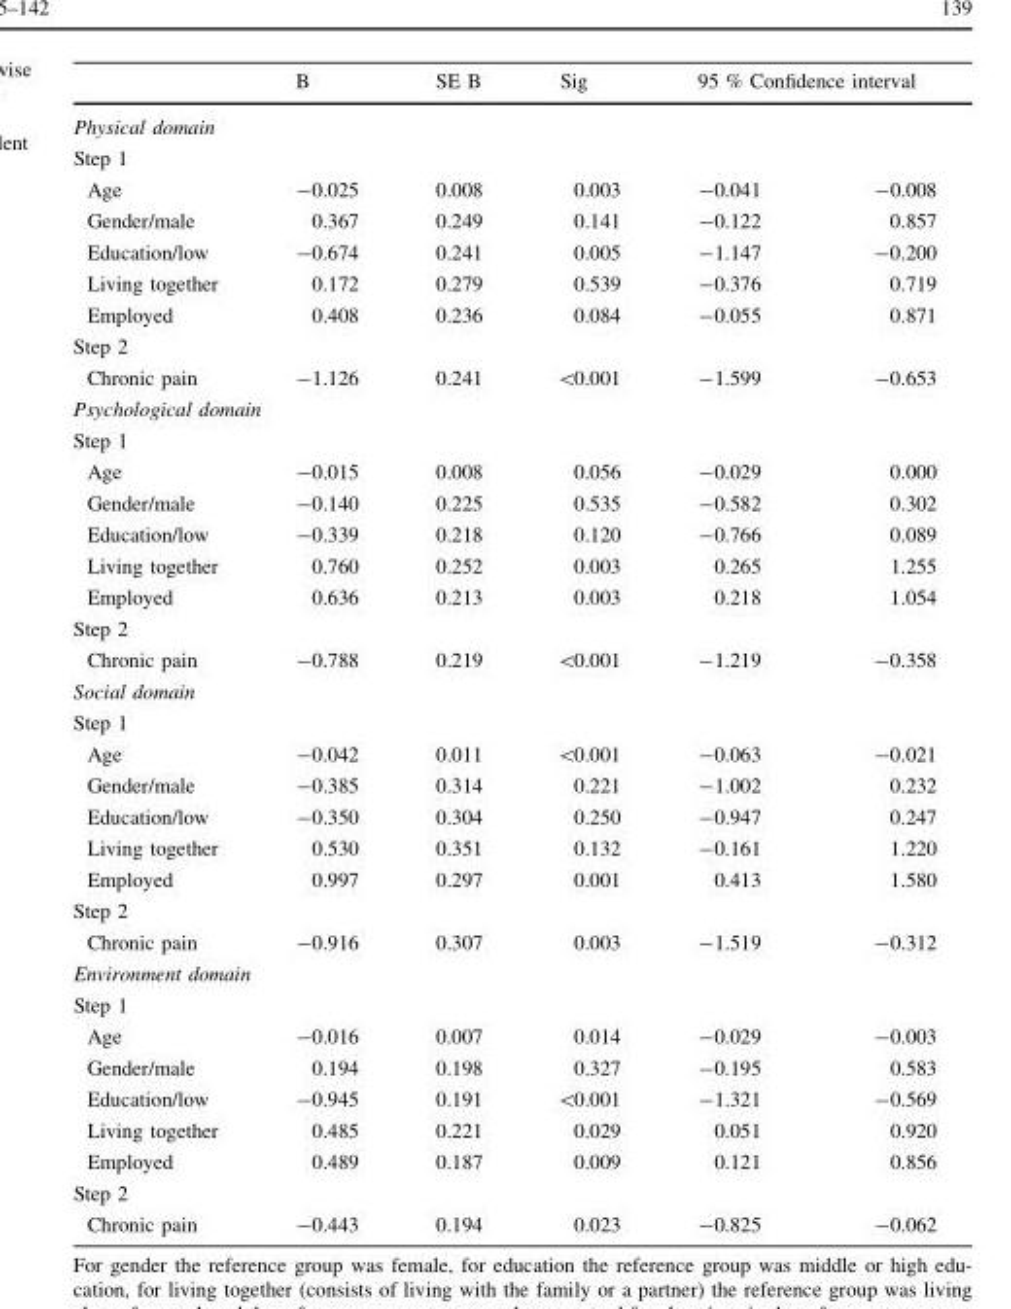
<table><thead><tr><td></td><td>B</td><td>SE B</td><td>Sig</td><td colspan="2">95 % Confidence interval</td></tr><tr><td rowspan="2" colspan="6">Physical domain Step 1</td></tr><tr></tr><tr><td>Age</td><td>-0.025</td><td>0.008</td><td>0.003</td><td>-0.041</td><td>-0.008</td></tr></thead><tbody><tr><td>Gender/male</td><td>0.367</td><td>0.249</td><td>0.141</td><td>-0.122</td><td>0.857</td></tr><tr><td>Education/low</td><td>-0.674</td><td>0.241</td><td>0.005</td><td>-1.147</td><td>-0.200</td></tr><tr><td>Living together</td><td>0.172</td><td>0.279</td><td>0.539</td><td>-0.376</td><td>0.719</td></tr><tr><td>Employed</td><td>0.408</td><td>0.236</td><td>0.084</td><td>-0.055</td><td>0.871</td></tr><tr><td colspan="6">Step 2</td></tr><tr><td>Chronic pain</td><td>-1.126</td><td>0.241</td><td>&lt;0.001</td><td>-1.599</td><td>-0.653</td></tr><tr><td colspan="6">Psychological domain</td></tr><tr><td colspan="6">Step 1</td></tr><tr><td>Age</td><td>-0.015</td><td>0.008</td><td>0.056</td><td>-0.029</td><td>0.000</td></tr><tr><td>Gender/male</td><td>-0.140</td><td>0.225</td><td>0.535</td><td>-0.582</td><td>0.302</td></tr><tr><td>Education/low</td><td>-0.339</td><td>0.218</td><td>0.120</td><td>-0.766</td><td>0.089</td></tr><tr><td>Living together</td><td>0.760</td><td>0.252</td><td>0.003</td><td>0.265</td><td>1.255</td></tr><tr><td>Employed</td><td>0.636</td><td>0.213</td><td>0.003</td><td>0.218</td><td>1.054</td></tr><tr><td colspan="6">Step 2</td></tr><tr><td>Chronic pain</td><td>-0.788</td><td>0.219</td><td>&lt;0.001</td><td>-1.219</td><td>-0.358</td></tr><tr><td colspan="6">Social domain</td></tr><tr><td colspan="6">Step 1</td></tr><tr><td>Age</td><td>-0.042</td><td>0.011</td><td>&lt;0.001</td><td>-0.063</td><td>-0.021</td></tr><tr><td>Gender/male</td><td>-0.385</td><td>0.314</td><td>0.221</td><td>-1.002</td><td>0.232</td></tr><tr><td>Education/low</td><td>-0.350</td><td>0.304</td><td>0.250</td><td>-0.947</td><td>0.247</td></tr><tr><td>Living together</td><td>0.530</td><td>0.351</td><td>0.132</td><td>-0.161</td><td>1.220</td></tr><tr><td>Employed</td><td>0.997</td><td>0.297</td><td>0.001</td><td>0.413</td><td>1.580</td></tr><tr><td colspan="6">Step 2</td></tr><tr><td>Chronic pain</td><td>-0.916</td><td>0.307</td><td>0.003</td><td>-1.519</td><td>-0.312</td></tr><tr><td colspan="6">Environment domain</td></tr><tr><td colspan="6">Step 1</td></tr><tr><td>Age</td><td>-0.016</td><td>0.007</td><td>0.014</td><td>-0.029</td><td>-0.003</td></tr><tr><td>Gender/male</td><td>0.194</td><td>0.198</td><td>0.327</td><td>-0.195</td><td>0.583</td></tr><tr><td>Education/low</td><td>-0.945</td><td>0.191</td><td>&lt;0.001</td><td>-1.321</td><td>-0.569</td></tr><tr><td>Living together</td><td>0.485</td><td>0.221</td><td>0.029</td><td>0.051</td><td>0.920</td></tr><tr><td>Employed</td><td>0.489</td><td>0.187</td><td>0.009</td><td>0.121</td><td>0.856</td></tr><tr><td colspan="6">Step 2</td></tr><tr><td>Chronic pain</td><td>-0.443</td><td>0.194</td><td>0.023</td><td>-0.825</td><td>-0.062</td></tr></tbody></table>